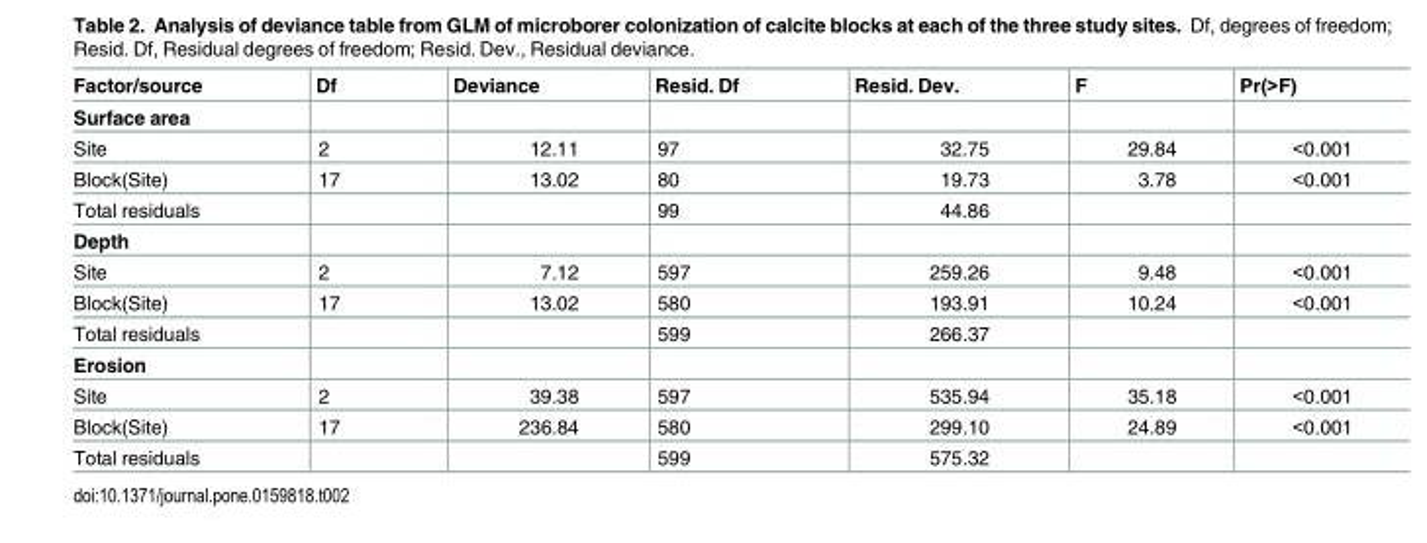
<table><thead><tr><td>Factor/source</td><td>Df</td><td>Deviance</td><td>Resid. Df</td><td>Resid. Dev.</td><td>F</td><td>Pr(&gt;F)</td></tr></thead><tbody><tr><td colspan="7">Surface area</td></tr><tr><td>Site</td><td>2</td><td>12.11</td><td>97</td><td>32.75</td><td>29.84</td><td>&lt;0.001</td></tr><tr><td>Block(Site)</td><td>17</td><td>13.02</td><td>80</td><td>19.73</td><td>3.78</td><td>&lt;0.001</td></tr><tr><td>Total residuals</td><td></td><td></td><td>99</td><td>44.86</td><td></td><td></td></tr><tr><td colspan="7">Depth</td></tr><tr><td>Site</td><td>2</td><td>7.12</td><td>597</td><td>259.26</td><td>9.48</td><td>&lt;0.001</td></tr><tr><td>Block(Site)</td><td>17</td><td>13.02</td><td>580</td><td>193.91</td><td>10.24</td><td>&lt;0.001</td></tr><tr><td>Total residuals</td><td></td><td></td><td>599</td><td>266.37</td><td></td><td></td></tr><tr><td colspan="7">Erosion</td></tr><tr><td>Site</td><td>2</td><td>39.38</td><td>597</td><td>535.94</td><td>35.18</td><td>&lt;0.001</td></tr><tr><td>Block(Site)</td><td>17</td><td>236.84</td><td>580</td><td>299.10</td><td>24.89</td><td>&lt;0.001</td></tr><tr><td>Total residuals</td><td></td><td></td><td>599</td><td>575.32</td><td></td><td></td></tr></tbody></table>